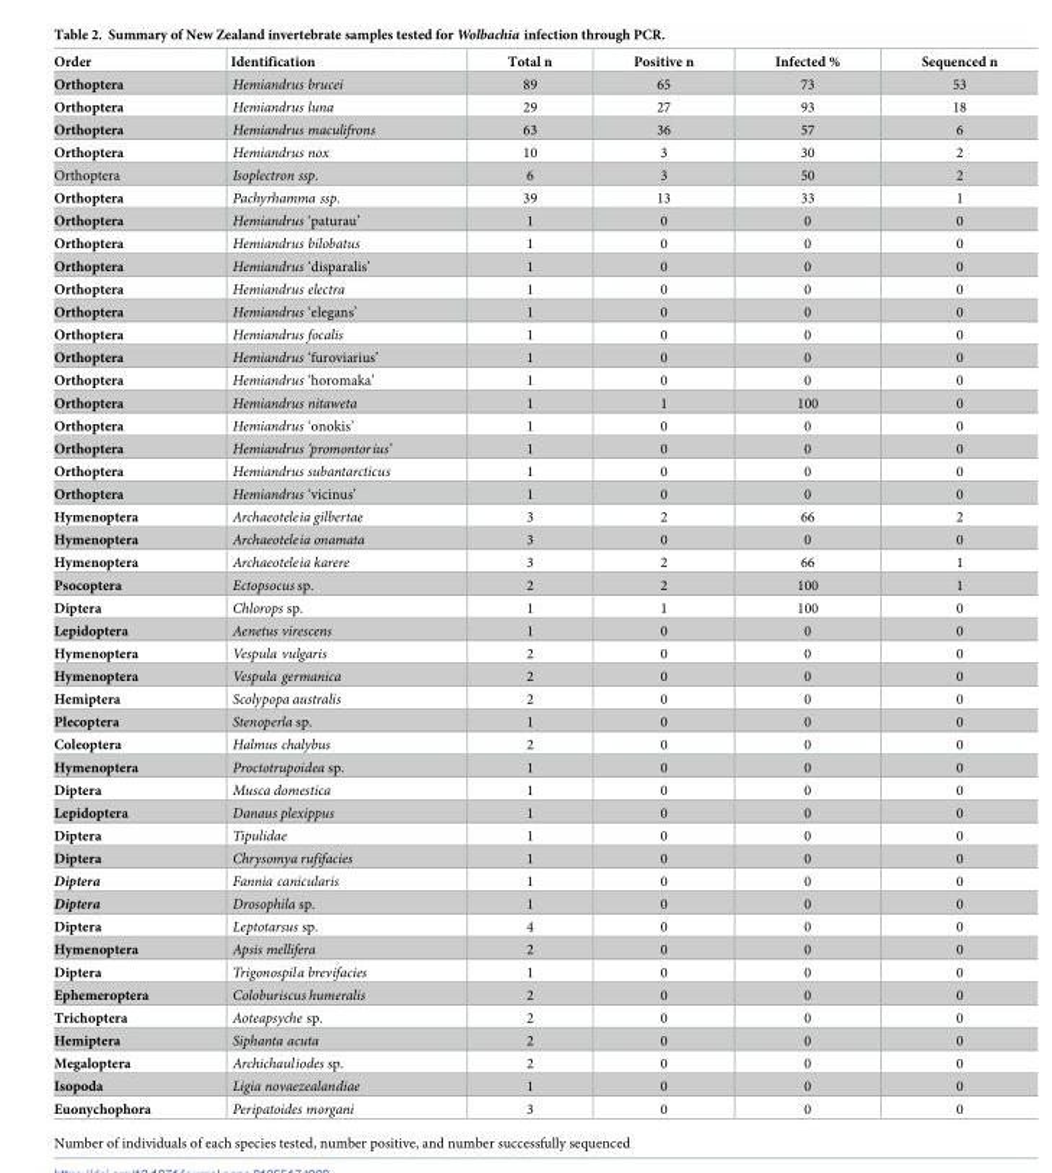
<table><thead><tr><td>Order</td><td>Identification</td><td>Total n</td><td>Positive n</td><td>Infected %</td><td>Sequenced n</td></tr></thead><tbody><tr><td>Orthoptera</td><td>Hemiandrus brucei</td><td>89</td><td>65</td><td>73</td><td>53</td></tr><tr><td>Orthoptera</td><td>Hemiandrus luna</td><td>29</td><td>27</td><td>93</td><td>18</td></tr><tr><td>Orthoptera</td><td>Hemiandrus maculifrons</td><td>63</td><td>36</td><td>57</td><td>6</td></tr><tr><td>Orthoptera</td><td>Hemiandrus nox</td><td>10</td><td>3</td><td>30</td><td>2</td></tr><tr><td>Orthoptera</td><td>Isoplectron ssp.</td><td>6</td><td>3</td><td>50</td><td>2</td></tr><tr><td>Orthoptera</td><td>Pachyrhamma ssp.</td><td>39</td><td>13</td><td>33</td><td>1</td></tr><tr><td>Orthoptera</td><td>Hemiandrus ‘paturau’</td><td>1</td><td>0</td><td>0</td><td>0</td></tr><tr><td>Orthoptera</td><td>Hemiandrus bilobatus</td><td>1</td><td>0</td><td>0</td><td>0</td></tr><tr><td>Orthoptera</td><td>Hemiandrus ‘disparalis’</td><td>1</td><td>0</td><td>0</td><td>0</td></tr><tr><td>Orthoptera</td><td>Hemiandrus electra</td><td>1</td><td>0</td><td>0</td><td>0</td></tr><tr><td>Orthoptera</td><td>Hemiandrus ‘elegans’</td><td>1</td><td>0</td><td>0</td><td>0</td></tr><tr><td>Orthoptera</td><td>Hemiandrus focalis</td><td>1</td><td>0</td><td>0</td><td>0</td></tr><tr><td>Orthoptera</td><td>Hemiandrus ‘furoviarius’</td><td>1</td><td>0</td><td>0</td><td>0</td></tr><tr><td>Orthoptera</td><td>Hemiandrus ‘horomaka’</td><td>1</td><td>0</td><td>0</td><td>0</td></tr><tr><td>Orthoptera</td><td>Hemiandrus nitaweta</td><td>1</td><td>1</td><td>100</td><td>0</td></tr><tr><td>Orthoptera</td><td>Hemiandrus ‘onokis’</td><td>1</td><td>0</td><td>0</td><td>0</td></tr><tr><td>Orthoptera</td><td>Hemiandrus ‘promontorius’</td><td>1</td><td>0</td><td>0</td><td>0</td></tr><tr><td>Orthoptera</td><td>Hemiandrus subantarcticus</td><td>1</td><td>0</td><td>0</td><td>0</td></tr><tr><td>Orthoptera</td><td>Hemiandrus ‘vicinus’</td><td>1</td><td>0</td><td>0</td><td>0</td></tr><tr><td>Hymenoptera</td><td>Archaeoteleia gilbertae</td><td>3</td><td>2</td><td>66</td><td>2</td></tr><tr><td>Hymenoptera</td><td>Archaeoteleia onamata</td><td>3</td><td>0</td><td>0</td><td>0</td></tr><tr><td>Hymenoptera</td><td>Archaeoteleia karere</td><td>3</td><td>2</td><td>66</td><td>1</td></tr><tr><td>Psocoptera</td><td>Ectopsocus sp.</td><td>2</td><td>2</td><td>100</td><td>1</td></tr><tr><td>Diptera</td><td>Chlorops sp.</td><td>1</td><td>1</td><td>100</td><td>0</td></tr><tr><td>Lepidoptera</td><td>Aenetus virescens</td><td>1</td><td>0</td><td>0</td><td>0</td></tr><tr><td>Hymenoptera</td><td>Vespula vulgaris</td><td>2</td><td>0</td><td>0</td><td>0</td></tr><tr><td>Hymenoptera</td><td>Vespula germanica</td><td>2</td><td>0</td><td>0</td><td>0</td></tr><tr><td>Hemiptera</td><td>Scolypopa australis</td><td>2</td><td>0</td><td>0</td><td>0</td></tr><tr><td>Plecoptera</td><td>Stenoperla sp.</td><td>1</td><td>0</td><td>0</td><td>0</td></tr><tr><td>Coleoptera</td><td>Halmus chalybus</td><td>2</td><td>0</td><td>0</td><td>0</td></tr><tr><td>Hymenoptera</td><td>Proctotrupoidea sp.</td><td>1</td><td>0</td><td>0</td><td>0</td></tr><tr><td>Diptera</td><td>Musca domestica</td><td>1</td><td>0</td><td>0</td><td>0</td></tr><tr><td>Lepidoptera</td><td>Danaus plexippus</td><td>1</td><td>0</td><td>0</td><td>0</td></tr><tr><td>Diptera</td><td>Tipulidae</td><td>1</td><td>0</td><td>0</td><td>0</td></tr><tr><td>Diptera</td><td>Chrysomya rufifacies</td><td>1</td><td>0</td><td>0</td><td>0</td></tr><tr><td>Diptera</td><td>Fannia canicularis</td><td>1</td><td>0</td><td>0</td><td>0</td></tr><tr><td>Diptera</td><td>Drosophila sp.</td><td>1</td><td>0</td><td>0</td><td>0</td></tr><tr><td>Diptera</td><td>Leptotarsus sp.</td><td>4</td><td>0</td><td>0</td><td>0</td></tr><tr><td>Hymenoptera</td><td>Apsis mellifera</td><td>2</td><td>0</td><td>0</td><td>0</td></tr><tr><td>Diptera</td><td>Trigonospila brevifacies</td><td>1</td><td>0</td><td>0</td><td>0</td></tr><tr><td>Ephemeroptera</td><td>Coloburiscus humeralis</td><td>2</td><td>0</td><td>0</td><td>0</td></tr><tr><td>Trichoptera</td><td>Aoteapsyche sp.</td><td>2</td><td>0</td><td>0</td><td>0</td></tr><tr><td>Hemiptera</td><td>Siphanta acuta</td><td>2</td><td>0</td><td>0</td><td>0</td></tr><tr><td>Megaloptera</td><td>Archichauliodes sp.</td><td>2</td><td>0</td><td>0</td><td>0</td></tr><tr><td>Isopoda</td><td>Ligia novaezealandiae</td><td>1</td><td>0</td><td>0</td><td>0</td></tr><tr><td>Euonychophora</td><td>Peripatoides morgani</td><td>3</td><td>0</td><td>0</td><td>0</td></tr></tbody></table>